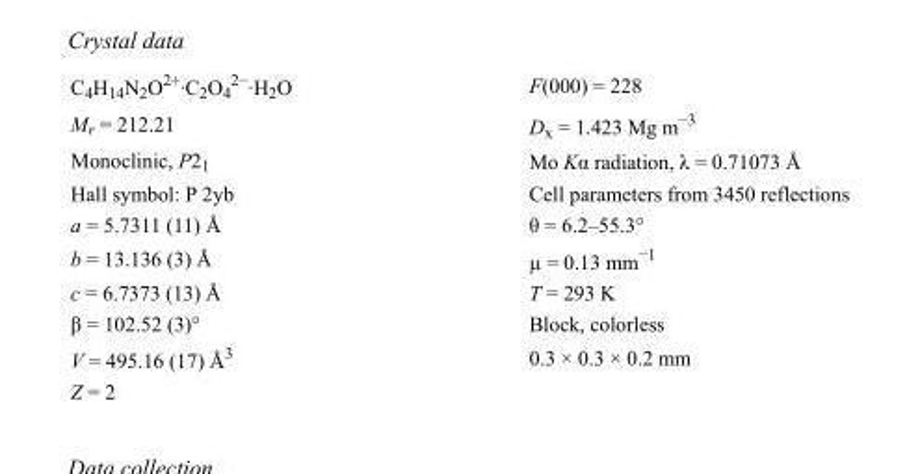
<table><tbody><tr><td>C<sub>4</sub>H<sub>14</sub>N<sub>2</sub>O<sup>2+</sup>·C<sub>2</sub>O<sub>4</sub> <sup>2−</sup>·H<sub>2</sub>O</td><td>F(000) = 228</td></tr><tr><td>M<sub>r</sub> = 212.21</td><td>D<sub>x</sub> = 1.423 Mg m<sup>−3</sup></td></tr><tr><td>Monoclinic, P2<sub>1</sub></td><td>Mo Kα radiation, λ = 0.71073 Å</td></tr><tr><td>Hall symbol: P 2yb</td><td>Cell parameters from 3450 reflections</td></tr><tr><td>a = 5.7311 (11) Å</td><td>θ = 6.2–55.3°</td></tr><tr><td>b = 13.136 (3) Å</td><td>µ = 0.13 mm<sup>−1</sup></td></tr><tr><td>c = 6.7373 (13) Å</td><td>T = 293 K</td></tr><tr><td>β = 102.52 (3)°</td><td>Block, colorless</td></tr><tr><td>V = 495.16 (17) Å<sup>3</sup></td><td>0.3 × 0.3 × 0.2 mm</td></tr><tr><td>Z = 2</td><td></td></tr></tbody></table>